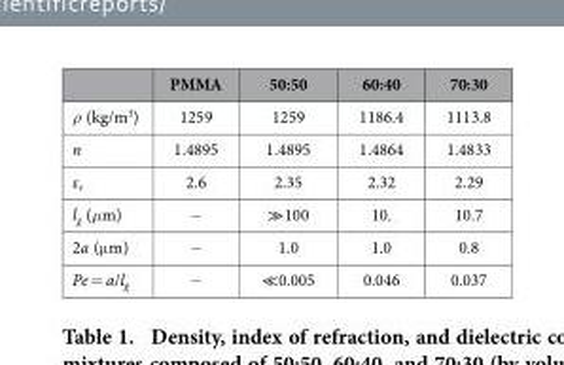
<table><thead><tr><td></td><td>PMMA</td><td>50:50</td><td>60:40</td><td>70:30</td></tr></thead><tbody><tr><td>ρ (kg/m<sup>3</sup>)</td><td>1259</td><td>1259</td><td>1186.4</td><td>1113.8</td></tr><tr><td>n</td><td>1.4895</td><td>1.4895</td><td>1.4864</td><td>1.4833</td></tr><tr><td>ε<sub>r</sub></td><td>2.6</td><td>2.35</td><td>2.32</td><td>2.29</td></tr><tr><td>l<sub>g</sub> (μm)</td><td>−</td><td>≫ 100</td><td>10.</td><td>10.7</td></tr><tr><td>2a (μ m)</td><td>−</td><td>1.0</td><td>1.0</td><td>0.8</td></tr><tr><td>Pe = a/l<sub>g</sub></td><td>−</td><td>≪ 0.005</td><td>0.046</td><td>0.037</td></tr></tbody></table>